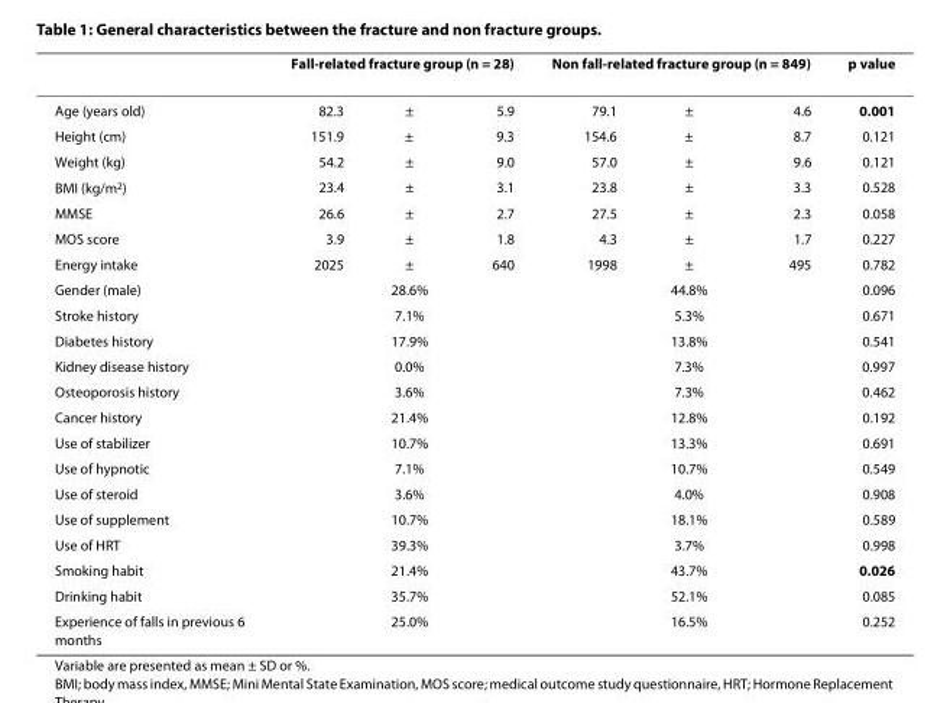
<table><thead><tr><td rowspan="2">Age (years old)</td><td colspan="3">Fall-related fracture group (n = 28)</td><td colspan="3">Non fall-related fracture group (n = 849)</td><td rowspan="2">p value 0.001</td></tr><tr><td>82.3</td><td>±</td><td>5.9</td><td>79.1</td><td>±</td><td>4.6</td></tr></thead><tbody><tr><td>Height (cm)</td><td>151.9</td><td>±</td><td>9.3</td><td>154.6</td><td>±</td><td>8.7</td><td>0.121</td></tr><tr><td>Weight (kg)</td><td>54.2</td><td>±</td><td>9.0</td><td>57.0</td><td>±</td><td>9.6</td><td>0.121</td></tr><tr><td>BMI (kg/m<sup>2</sup>)</td><td>23.4</td><td>±</td><td>3.1</td><td>23.8</td><td>±</td><td>3.3</td><td>0.528</td></tr><tr><td>MMSE</td><td>26.6</td><td>±</td><td>2.7</td><td>27.5</td><td>±</td><td>2.3</td><td>0.058</td></tr><tr><td>MOS score</td><td>3.9</td><td>±</td><td>1.8</td><td>4.3</td><td>±</td><td>1.7</td><td>0.227</td></tr><tr><td>Energy intake</td><td>2025</td><td>±</td><td>640</td><td>1998</td><td>±</td><td>495</td><td>0.782</td></tr><tr><td>Gender (male)</td><td></td><td>28.6%</td><td></td><td></td><td>44.8%</td><td></td><td>0.096</td></tr><tr><td>Stroke history</td><td></td><td>7.1%</td><td></td><td></td><td>5.3%</td><td></td><td>0.671</td></tr><tr><td>Diabetes history</td><td></td><td>17.9%</td><td></td><td></td><td>13.8%</td><td></td><td>0.541</td></tr><tr><td>Kidney disease history</td><td></td><td>0.0%</td><td></td><td></td><td>7.3%</td><td></td><td>0.997</td></tr><tr><td>Osteoporosis history</td><td></td><td>3.6%</td><td></td><td></td><td>7.3%</td><td></td><td>0.462</td></tr><tr><td>Cancer history</td><td></td><td>21.4%</td><td></td><td></td><td>12.8%</td><td></td><td>0.192</td></tr><tr><td>Use of stabilizer</td><td></td><td>10.7%</td><td></td><td></td><td>13.3%</td><td></td><td>0.691</td></tr><tr><td>Use of hypnotic</td><td></td><td>7.1%</td><td></td><td></td><td>10.7%</td><td></td><td>0.549</td></tr><tr><td>Use of steroid</td><td></td><td>3.6%</td><td></td><td></td><td>4.0%</td><td></td><td>0.908</td></tr><tr><td>Use of supplement</td><td></td><td>10.7%</td><td></td><td></td><td>18.1%</td><td></td><td>0.589</td></tr><tr><td>Use of HRT</td><td></td><td>39.3%</td><td></td><td></td><td>3.7%</td><td></td><td>0.998</td></tr><tr><td>Smoking habit</td><td></td><td>21.4%</td><td></td><td></td><td>43.7%</td><td></td><td>0.026</td></tr><tr><td>Drinking habit</td><td></td><td>35.7%</td><td></td><td></td><td>52.1%</td><td></td><td>0.085</td></tr><tr><td>Experience of falls in previous 6 months</td><td></td><td>25.0%</td><td></td><td></td><td>16.5%</td><td></td><td>0.252</td></tr></tbody></table>